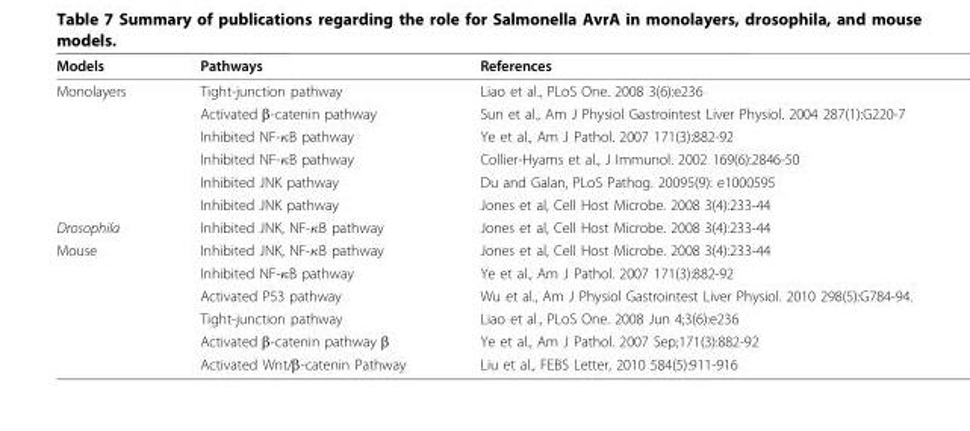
<table><thead><tr><td>Models</td><td>Pathways</td><td>References</td></tr></thead><tbody><tr><td rowspan="6">Monolayers</td><td>Tight-junction pathway</td><td>Liao et al., PLoS One. 2008 3(6):e236</td></tr><tr><td>Activated β-catenin pathway</td><td>Sun et al., Am J Physiol Gastrointest Liver Physiol. 2004 287(1):G220-7</td></tr><tr><td>Inhibited NF-κB pathway</td><td>Ye et al., Am J Pathol. 2007 171(3):882-92</td></tr><tr><td>Inhibited NF-κB pathway</td><td>Collier-Hyams et al., J Immunol. 2002 169(6):2846-50</td></tr><tr><td>Inhibited JNK pathway</td><td>Du and Galan, PLoS Pathog. 20095(9): e1000595</td></tr><tr><td>Inhibited JNK pathway</td><td>Jones et al, Cell Host Microbe. 2008 3(4):233-44</td></tr><tr><td>Drosophila</td><td>Inhibited JNK, NF-κB pathway</td><td>Jones et al, Cell Host Microbe. 2008 3(4):233-44</td></tr><tr><td rowspan="6">Mouse</td><td>Inhibited JNK, NF-κB pathway</td><td>Jones et al, Cell Host Microbe. 2008 3(4):233-44</td></tr><tr><td>Inhibited NF-κB pathway</td><td>Ye et al., Am J Pathol. 2007 171(3):882-92</td></tr><tr><td>Activated P53 pathway</td><td>Wu et al., Am J Physiol Gastrointest Liver Physiol. 2010 298(5):G784-94.</td></tr><tr><td>Tight-junction pathway</td><td>Liao et al., PLoS One. 2008 Jun 4;3(6):e236</td></tr><tr><td>Activated β-catenin pathway β</td><td>Ye et al., Am J Pathol. 2007 Sep;171(3):882-92</td></tr><tr><td>Activated Wnt/β-catenin Pathway</td><td>Liu et al., FEBS Letter, 2010 584(5):911-916</td></tr></tbody></table>